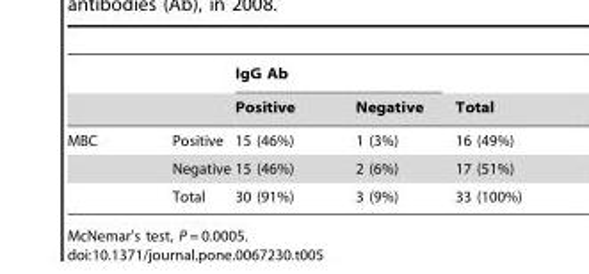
<table><thead><tr><td rowspan="2"></td><td rowspan="2"></td><td colspan="2">IgG Ab</td><td rowspan="2">Total</td></tr><tr><td>Positive</td><td>Negative</td></tr></thead><tbody><tr><td rowspan="3">MBC</td><td>Positive</td><td>15 (46%)</td><td>1 (3%)</td><td>16 (49%)</td></tr><tr><td>Negative</td><td>15 (46%)</td><td>2 (6%)</td><td>17 (51%)</td></tr><tr><td>Total</td><td>30 (91%)</td><td>3 (9%)</td><td>33 (100%)</td></tr></tbody></table>